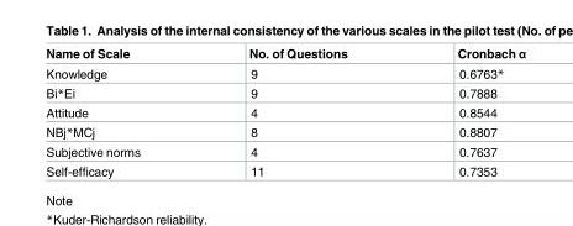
<table><thead><tr><td>Name of Scale</td><td>No. of Questions</td><td>Cronbach α</td></tr></thead><tbody><tr><td>Knowledge</td><td>9</td><td>0.6763*</td></tr><tr><td>Bi*Ei</td><td>9</td><td>0.7888</td></tr><tr><td>Attitude</td><td>4</td><td>0.8544</td></tr><tr><td>NBj*MCj</td><td>8</td><td>0.8807</td></tr><tr><td>Subjective norms</td><td>4</td><td>0.7637</td></tr><tr><td>Self-efficacy</td><td>11</td><td>0.7353</td></tr></tbody></table>